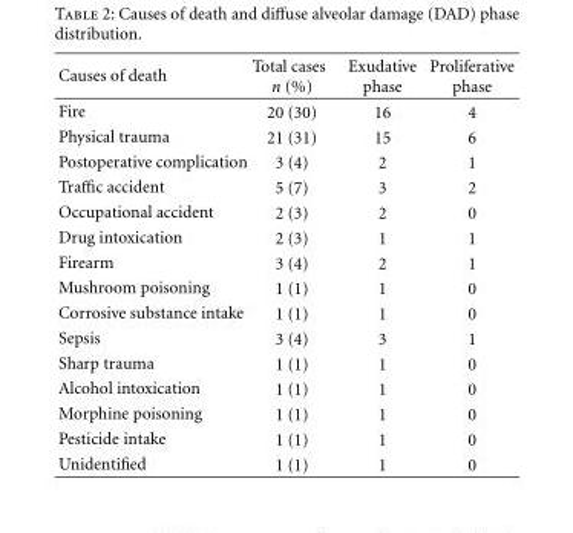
<table><thead><tr><td>Causes of death</td><td>Total cases n (%)</td><td>Exudative phase</td><td>Proliferative phase</td></tr></thead><tbody><tr><td>Fire</td><td>20 (30)</td><td>16</td><td>4</td></tr><tr><td>Physical trauma</td><td>21 (31)</td><td>15</td><td>6</td></tr><tr><td>Postoperative complication</td><td>3 (4)</td><td>2</td><td>1</td></tr><tr><td>Traffic accident</td><td>5 (7)</td><td>3</td><td>2</td></tr><tr><td>Occupational accident</td><td>2 (3)</td><td>2</td><td>0</td></tr><tr><td>Drug intoxication</td><td>2 (3)</td><td>1</td><td>1</td></tr><tr><td>Firearm</td><td>3 (4)</td><td>2</td><td>1</td></tr><tr><td>Mushroom poisoning</td><td>1 (1)</td><td>1</td><td>0</td></tr><tr><td>Corrosive substance intake</td><td>1 (1)</td><td>1</td><td>0</td></tr><tr><td>Sepsis</td><td>3 (4)</td><td>3</td><td>1</td></tr><tr><td>Sharp trauma</td><td>1 (1)</td><td>1</td><td>0</td></tr><tr><td>Alcohol intoxication</td><td>1 (1)</td><td>1</td><td>0</td></tr><tr><td>Morphine poisoning</td><td>1 (1)</td><td>1</td><td>0</td></tr><tr><td>Pesticide intake</td><td>1 (1)</td><td>1</td><td>0</td></tr><tr><td>Unidentified</td><td>1 (1)</td><td>1</td><td>0</td></tr></tbody></table>